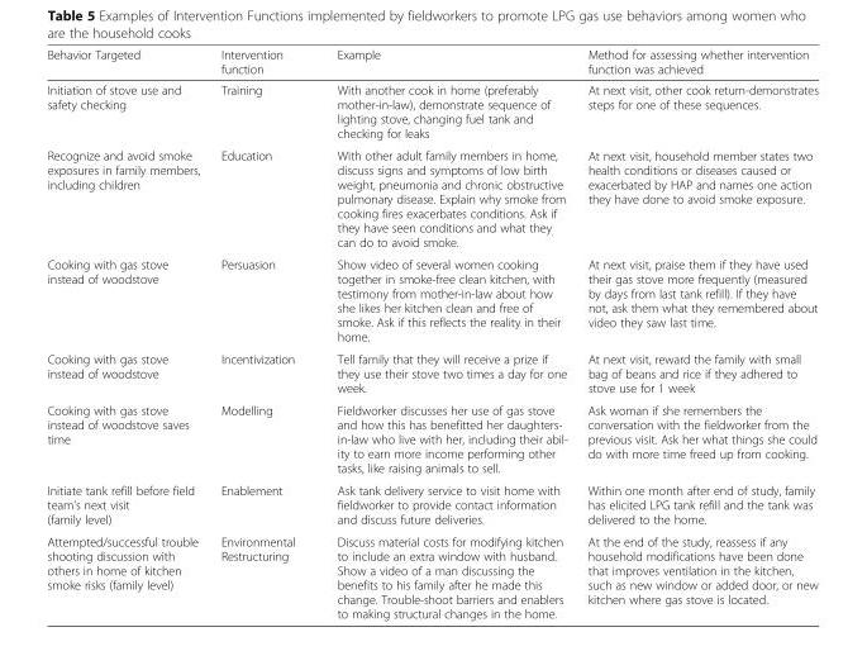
<table><thead><tr><td>Behavior Targeted</td><td>Intervention function</td><td>Example</td><td>Method for assessing whether intervention function was achieved</td></tr></thead><tbody><tr><td>Initiation of stove use and safety checking</td><td>Training</td><td>With another cook in home (preferably mother-in-law), demonstrate sequence of lighting stove, changing fuel tank and checking for leaks</td><td>At next visit, other cook return-demonstrates steps for one of these sequences.</td></tr><tr><td>Recognize and avoid smoke exposures in family members, including children</td><td>Education</td><td>With other adult family members in home, discuss signs and symptoms of low birth weight, pneumonia and chronic obstructive pulmonary disease. Explain why smoke from cooking fires exacerbates conditions. Ask if they have seen conditions and what they can do to avoid smoke.</td><td>At next visit, household member states two health conditions or diseases caused or exacerbated by HAP and names one action they have done to avoid smoke exposure.</td></tr><tr><td>Cooking with gas stove instead of woodstove</td><td>Persuasion</td><td>Show video of several women cooking together in smoke-free clean kitchen, with testimony from mother-in-law about how she likes her kitchen clean and free of smoke. Ask if this reflects the reality in their home.</td><td>At next visit, praise them if they have used their gas stove more frequently (measured by days from last tank refill). If they have not, ask them what they remembered about video they saw last time.</td></tr><tr><td>Cooking with gas stove instead of woodstove</td><td>Incentivization</td><td>Tell family that they will receive a prize if they use their stove two times a day for one week.</td><td>At next visit, reward the family with small bag of beans and rice if they adhered to stove use for 1 week</td></tr><tr><td>Cooking with gas stove instead of woodstove saves time</td><td>Modelling</td><td>Fieldworker discusses her use of gas stove and how this has benefitted her daughters- in-law who live with her, including their abil- ity to earn more income performing other tasks, like raising animals to sell.</td><td>Ask woman if she remembers the conversation with the fieldworker from the previous visit. Ask her what things she could do with more time freed up from cooking.</td></tr><tr><td>Initiate tank refill before field team’s next visit (family level)</td><td>Enablement</td><td>Ask tank delivery service to visit home with fieldworker to provide contact information and discuss future deliveries.</td><td>Within one month after end of study, family has elicited LPG tank refill and the tank was delivered to the home.</td></tr><tr><td>Attempted/successful trouble shooting discussion with others in home of kitchen smoke risks (family level)</td><td>Environmental Restructuring</td><td>Discuss material costs for modifying kitchen to include an extra window with husband. Show a video of a man discussing the benefits to his family after he made this change. Trouble-shoot barriers and enablers to making structural changes in the home.</td><td>At the end of the study, reassess if any household modifications have been done that improves ventilation in the kitchen, such as new window or added door, or new kitchen where gas stove is located.</td></tr></tbody></table>